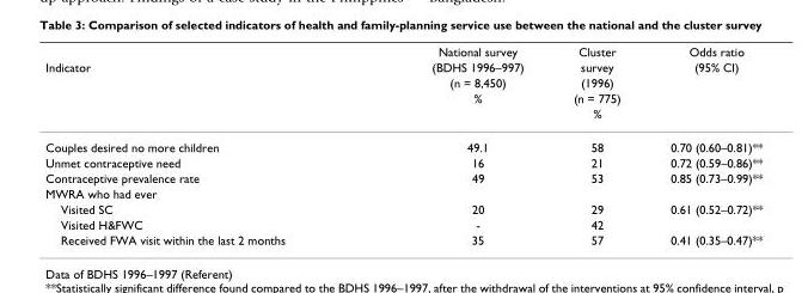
<table><thead><tr><td rowspan="5">Indicator</td><td rowspan="5">National survey (BDHS 1996–997) (n = 8,450) %</td><td rowspan="5">Cluster survey (1996) (n = 775) %</td><td rowspan="5">Odds ratio (95% CI)</td></tr><tr></tr><tr></tr><tr></tr><tr></tr></thead><tbody><tr><td>Couples desired no more children</td><td>49.1</td><td>58</td><td>0.70 (0.60–0.81)**</td></tr><tr><td>Unmet contraceptive need</td><td>16</td><td>21</td><td>0.72 (0.59–0.86)**</td></tr><tr><td>Contraceptive prevalence rate</td><td>49</td><td>53</td><td>0.85 (0.73–0.99)**</td></tr><tr><td colspan="4">MWRA who had ever</td></tr><tr><td>Visited SC</td><td>20</td><td>29</td><td>0.61 (0.52–0.72)**</td></tr><tr><td>Visited H&amp;FWC</td><td>-</td><td>42</td><td></td></tr><tr><td>Received FWA visit within the last 2 months</td><td>35</td><td>57</td><td>0.41 (0.35–0.47)**</td></tr></tbody></table>